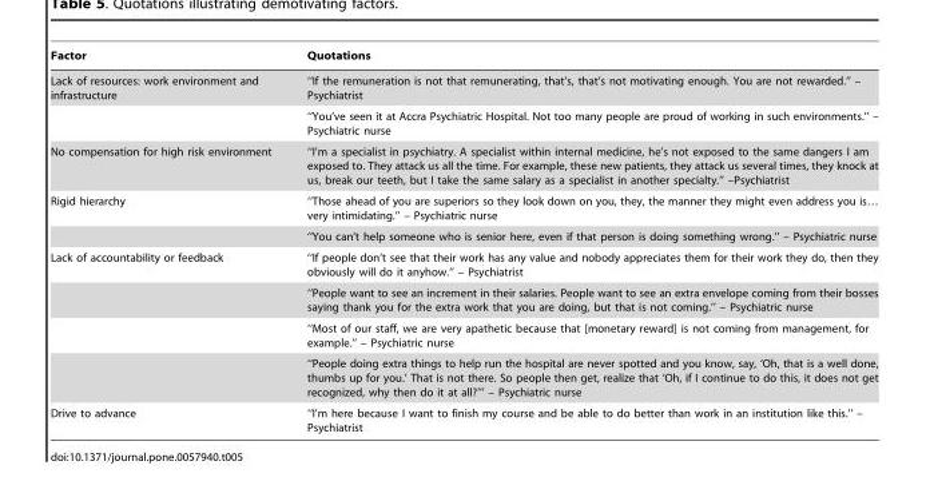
<table><thead><tr><td>Factor</td><td>Quotations</td></tr></thead><tbody><tr><td rowspan="2">Lack of resources: work environment and infrastructure</td><td>‘‘If the remuneration is not that remunerating, that’s, that’s not motivating enough. You are not rewarded.’’ – Psychiatrist</td></tr><tr><td>‘‘You’ve seen it at Accra Psychiatric Hospital. Not too many people are proud of working in such environments.’’ – Psychiatric nurse</td></tr><tr><td>No compensation for high risk environment</td><td>‘‘I’m a specialist in psychiatry. A specialist within internal medicine, he’s not exposed to the same dangers I am exposed to. They attack us all the time. For example, these new patients, they attack us several times, they knock at us, break our teeth, but I take the same salary as a specialist in another specialty.’’ –Psychiatrist</td></tr><tr><td rowspan="2">Rigid hierarchy</td><td>‘‘Those ahead of you are superiors so they look down on you, they, the manner they might even address you is… very intimidating.’’ – Psychiatric nurse</td></tr><tr><td>‘‘You can’t help someone who is senior here, even if that person is doing something wrong.’’ – Psychiatric nurse</td></tr><tr><td rowspan="4">Lack of accountability or feedback</td><td>‘‘If people don’t see that their work has any value and nobody appreciates them for their work they do, then they obviously will do it anyhow.’’ – Psychiatrist</td></tr><tr><td>‘‘People want to see an increment in their salaries. People want to see an extra envelope coming from their bosses saying thank you for the extra work that you are doing, but that is not coming.’’ – Psychiatric nurse</td></tr><tr><td>‘‘Most of our staff, we are very apathetic because that [monetary reward] is not coming from management, for example.’’ – Psychiatric nurse</td></tr><tr><td>‘‘People doing extra things to help run the hospital are never spotted and you know, say, ‘Oh, that is a well done, thumbs up for you.’ That is not there. So people then get, realize that ‘Oh, if I continue to do this, it does not get recognized, why then do it at all?’’’ – Psychiatric nurse</td></tr><tr><td>Drive to advance</td><td>‘‘I’m here because I want to finish my course and be able to do better than work in an institution like this.’’ – Psychiatrist</td></tr></tbody></table>